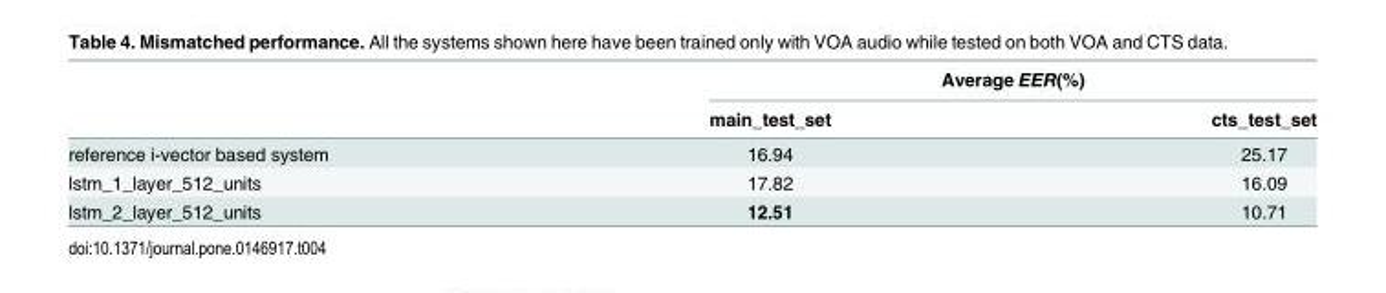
<table><thead><tr><td rowspan="2"></td><td colspan="2">Average EER(%)</td></tr><tr><td>main_test_set</td><td>cts_test_set</td></tr></thead><tbody><tr><td>reference i-vector based system</td><td>16.94</td><td>25.17</td></tr><tr><td>lstm_1_layer_512_units</td><td>17.82</td><td>16.09</td></tr><tr><td>lstm_2_layer_512_units</td><td>12.51</td><td>10.71</td></tr></tbody></table>